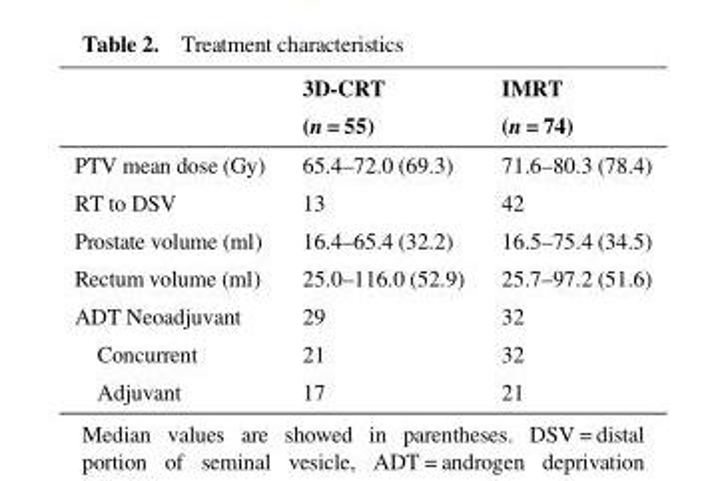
<table><thead><tr><td rowspan="2"></td><td rowspan="2">3D-CRT (n = 55)</td><td rowspan="2">IMRT (n = 74)</td></tr><tr></tr></thead><tbody><tr><td>PTV mean dose (Gy)</td><td>65.4–72.0 (69.3)</td><td>71.6–80.3 (78.4)</td></tr><tr><td>RT to DSV</td><td>13</td><td>42</td></tr><tr><td>Prostate volume (ml)</td><td>16.4–65.4 (32.2)</td><td>16.5–75.4 (34.5)</td></tr><tr><td>Rectum volume (ml)</td><td>25.0–116.0 (52.9)</td><td>25.7–97.2 (51.6)</td></tr><tr><td>ADT Neoadjuvant</td><td>29</td><td>32</td></tr><tr><td>Concurrent</td><td>21</td><td>32</td></tr><tr><td>Adjuvant</td><td>17</td><td>21</td></tr></tbody></table>